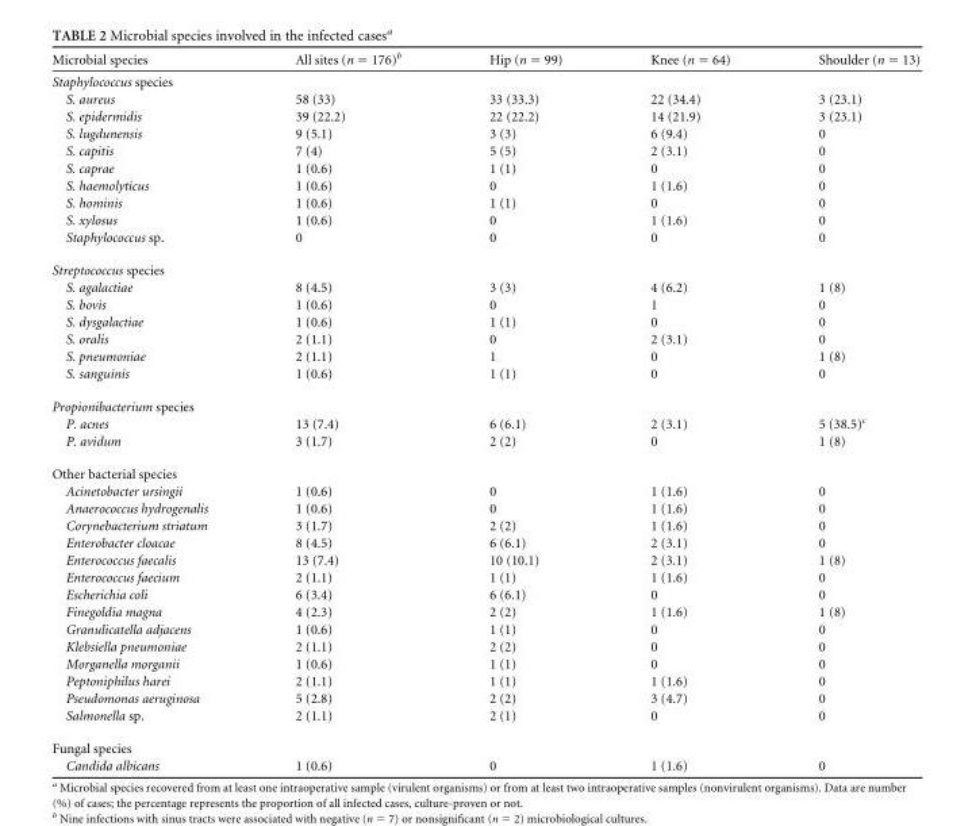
<table><thead><tr><td>Microbial species</td><td>All sites (n = 176)<sup>b</sup></td><td>Hip (n = 99)</td><td>Knee (n = 64)</td><td>Shoulder (n = 13)</td></tr></thead><tbody><tr><td colspan="5">Staphylococcus species</td></tr><tr><td>S. aureus</td><td>58 (33)</td><td>33 (33.3)</td><td>22 (34.4)</td><td>3 (23.1)</td></tr><tr><td>S. epidermidis</td><td>39 (22.2)</td><td>22 (22.2)</td><td>14 (21.9)</td><td>3 (23.1)</td></tr><tr><td>S. lugdunensis</td><td>9 (5.1)</td><td>3 (3)</td><td>6 (9.4)</td><td>0</td></tr><tr><td>S. capitis</td><td>7 (4)</td><td>5 (5)</td><td>2 (3.1)</td><td>0</td></tr><tr><td>S. caprae</td><td>1 (0.6)</td><td>1 (1)</td><td>0</td><td>0</td></tr><tr><td>S. haemolyticus</td><td>1 (0.6)</td><td>0</td><td>1 (1.6)</td><td>0</td></tr><tr><td>S. hominis</td><td>1 (0.6)</td><td>1 (1)</td><td>0</td><td>0</td></tr><tr><td>S. xylosus</td><td>1 (0.6)</td><td>0</td><td>1 (1.6)</td><td>0</td></tr><tr><td>Staphylococcus sp.</td><td>0</td><td>0</td><td>0</td><td>0</td></tr><tr><td colspan="5">Streptococcus species</td></tr><tr><td>S. agalactiae</td><td>8 (4.5)</td><td>3 (3)</td><td>4 (6.2)</td><td>1 (8)</td></tr><tr><td>S. bovis</td><td>1 (0.6)</td><td>0</td><td>1</td><td>0</td></tr><tr><td>S. dysgalactiae</td><td>1 (0.6)</td><td>1 (1)</td><td>0</td><td>0</td></tr><tr><td>S. oralis</td><td>2 (1.1)</td><td>0</td><td>2 (3.1)</td><td>0</td></tr><tr><td>S. pneumoniae</td><td>2 (1.1)</td><td>1</td><td>0</td><td>1 (8)</td></tr><tr><td>S. sanguinis</td><td>1 (0.6)</td><td>1 (1)</td><td>0</td><td>0</td></tr><tr><td colspan="5">Propionibacterium species</td></tr><tr><td>P. acnes</td><td>13 (7.4)</td><td>6 (6.1)</td><td>2 (3.1)</td><td>5 (38.5)<sup>c</sup></td></tr><tr><td>P. avidum</td><td>3 (1.7)</td><td>2 (2)</td><td>0</td><td>1 (8)</td></tr><tr><td colspan="5">Other bacterial species</td></tr><tr><td>Acinetobacter ursingii</td><td>1 (0.6)</td><td>0</td><td>1 (1.6)</td><td>0</td></tr><tr><td>Anaerococcus hydrogenalis</td><td>1 (0.6)</td><td>0</td><td>1 (1.6)</td><td>0</td></tr><tr><td>Corynebacterium striatum</td><td>3 (1.7)</td><td>2 (2)</td><td>1 (1.6)</td><td>0</td></tr><tr><td>Enterobacter cloacae</td><td>8 (4.5)</td><td>6 (6.1)</td><td>2 (3.1)</td><td>0</td></tr><tr><td>Enterococcus faecalis</td><td>13 (7.4)</td><td>10 (10.1)</td><td>2 (3.1)</td><td>1 (8)</td></tr><tr><td>Enterococcus faecium</td><td>2 (1.1)</td><td>1 (1)</td><td>1 (1.6)</td><td>0</td></tr><tr><td>Escherichia coli</td><td>6 (3.4)</td><td>6 (6.1)</td><td>0</td><td>0</td></tr><tr><td>Finegoldia magna</td><td>4 (2.3)</td><td>2 (2)</td><td>1 (1.6)</td><td>1 (8)</td></tr><tr><td>Granulicatella adjacens</td><td>1 (0.6)</td><td>1 (1)</td><td>0</td><td>0</td></tr><tr><td>Klebsiella pneumoniae</td><td>2 (1.1)</td><td>2 (2)</td><td>0</td><td>0</td></tr><tr><td>Morganella morganii</td><td>1 (0.6)</td><td>1 (1)</td><td>0</td><td>0</td></tr><tr><td>Peptoniphilus harei</td><td>2 (1.1)</td><td>1 (1)</td><td>1 (1.6)</td><td>0</td></tr><tr><td>Pseudomonas aeruginosa</td><td>5 (2.8)</td><td>2 (2)</td><td>3 (4.7)</td><td>0</td></tr><tr><td>Salmonella sp.</td><td>2 (1.1)</td><td>2 (1)</td><td>0</td><td>0</td></tr><tr><td colspan="5">Fungal species</td></tr><tr><td>Candida albicans</td><td>1 (0.6)</td><td>0</td><td>1 (1.6)</td><td>0</td></tr></tbody></table>